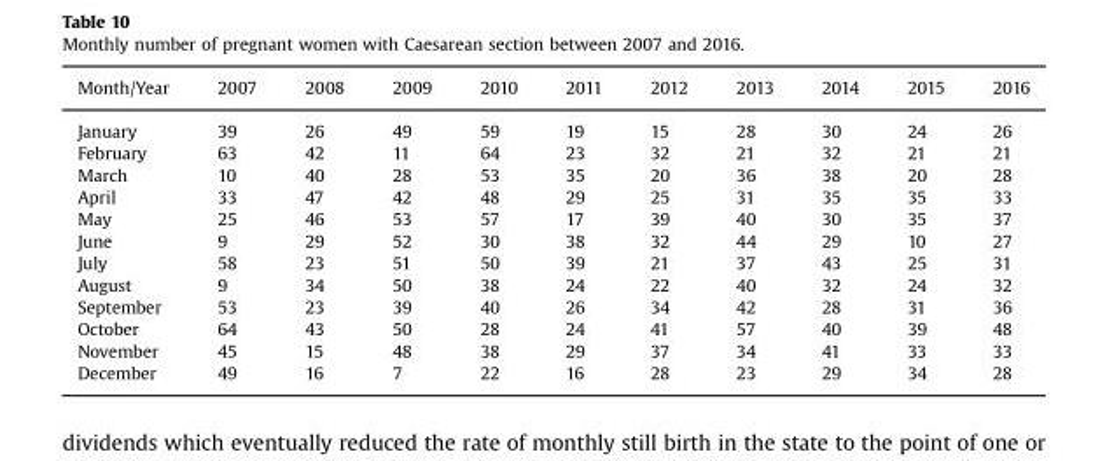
<table><thead><tr><td>Month/Year</td><td>2007</td><td>2008</td><td>2009</td><td>2010</td><td>2011</td><td>2012</td><td>2013</td><td>2014</td><td>2015</td><td>2016</td></tr></thead><tbody><tr><td>January</td><td>39</td><td>26</td><td>49</td><td>59</td><td>19</td><td>15</td><td>28</td><td>30</td><td>24</td><td>26</td></tr><tr><td>February</td><td>63</td><td>42</td><td>11</td><td>64</td><td>23</td><td>32</td><td>21</td><td>32</td><td>21</td><td>21</td></tr><tr><td>March</td><td>10</td><td>40</td><td>28</td><td>53</td><td>35</td><td>20</td><td>36</td><td>38</td><td>20</td><td>28</td></tr><tr><td>April</td><td>33</td><td>47</td><td>42</td><td>48</td><td>29</td><td>25</td><td>31</td><td>35</td><td>35</td><td>33</td></tr><tr><td>May</td><td>25</td><td>46</td><td>53</td><td>57</td><td>17</td><td>39</td><td>40</td><td>30</td><td>35</td><td>37</td></tr><tr><td>June</td><td>9</td><td>29</td><td>52</td><td>30</td><td>38</td><td>32</td><td>44</td><td>29</td><td>10</td><td>27</td></tr><tr><td>July</td><td>58</td><td>23</td><td>51</td><td>50</td><td>39</td><td>21</td><td>37</td><td>43</td><td>25</td><td>31</td></tr><tr><td>August</td><td>9</td><td>34</td><td>50</td><td>38</td><td>24</td><td>22</td><td>40</td><td>32</td><td>24</td><td>32</td></tr><tr><td>September</td><td>53</td><td>23</td><td>39</td><td>40</td><td>26</td><td>34</td><td>42</td><td>28</td><td>31</td><td>36</td></tr><tr><td>October</td><td>64</td><td>43</td><td>50</td><td>28</td><td>24</td><td>41</td><td>57</td><td>40</td><td>39</td><td>48</td></tr><tr><td>November</td><td>45</td><td>15</td><td>48</td><td>38</td><td>29</td><td>37</td><td>34</td><td>41</td><td>33</td><td>33</td></tr><tr><td>December</td><td>49</td><td>16</td><td>7</td><td>22</td><td>16</td><td>28</td><td>23</td><td>29</td><td>34</td><td>28</td></tr></tbody></table>